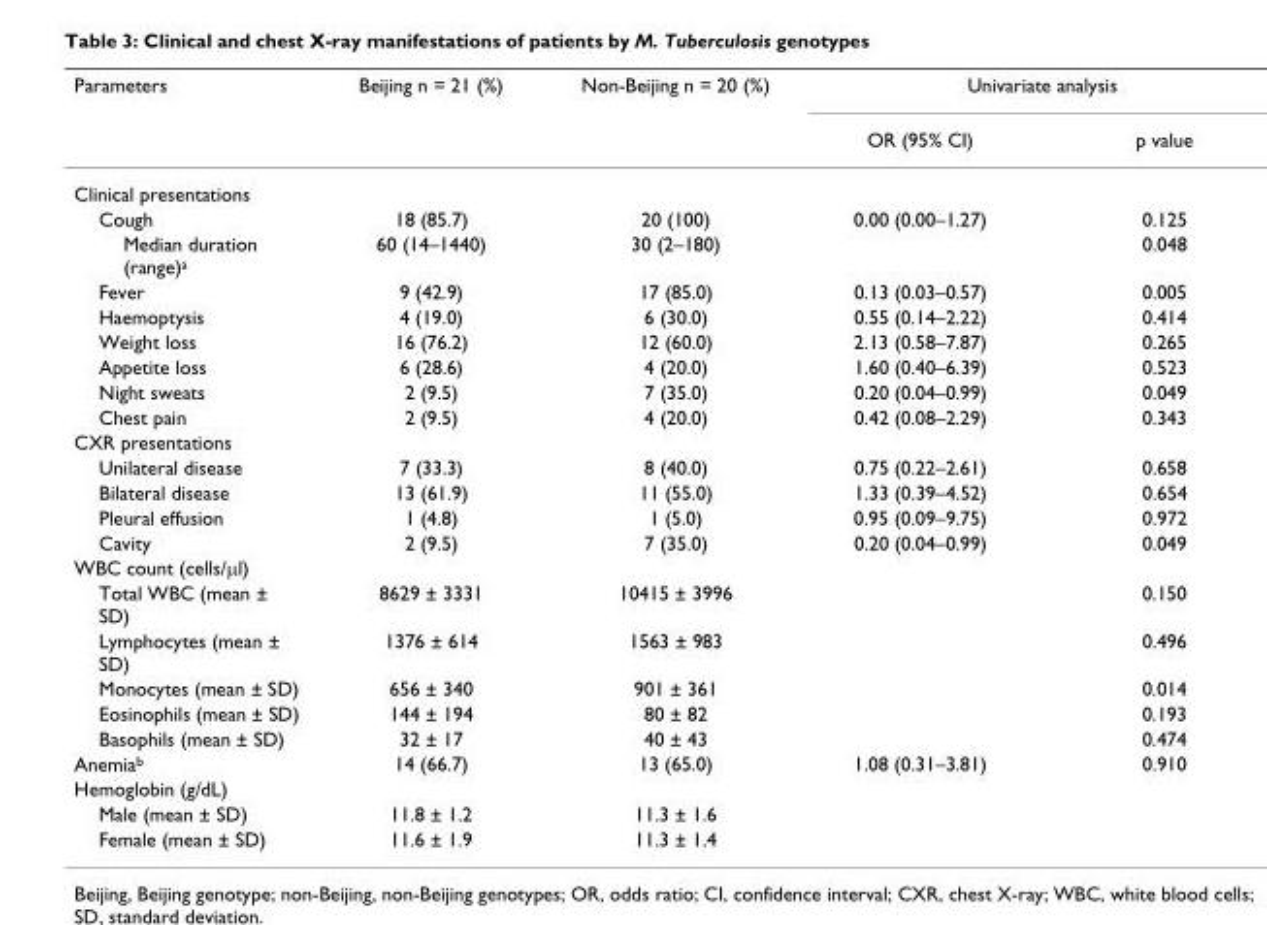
<table><thead><tr><td rowspan="2">Parameters</td><td rowspan="2">Beijing n = 21 (%)</td><td rowspan="2">Non-Beijing n = 20 (%)</td><td colspan="2">Univariate analysis</td></tr><tr><td>OR (95% CI)</td><td>p value</td></tr></thead><tbody><tr><td colspan="5">Clinical presentations</td></tr><tr><td>Cough</td><td>18 (85.7)</td><td>20 (100)</td><td>0.00 (0.00–1.27)</td><td>0.125</td></tr><tr><td>Median duration (range)<sup>a</sup></td><td>60 (14–1440)</td><td>30 (2–180)</td><td></td><td>0.048</td></tr><tr><td>Fever</td><td>9 (42.9)</td><td>17 (85.0)</td><td>0.13 (0.03–0.57)</td><td>0.005</td></tr><tr><td>Haemoptysis</td><td>4 (19.0)</td><td>6 (30.0)</td><td>0.55 (0.14–2.22)</td><td>0.414</td></tr><tr><td>Weight loss</td><td>16 (76.2)</td><td>12 (60.0)</td><td>2.13 (0.58–7.87)</td><td>0.265</td></tr><tr><td>Appetite loss</td><td>6 (28.6)</td><td>4 (20.0)</td><td>1.60 (0.40–6.39)</td><td>0.523</td></tr><tr><td>Night sweats</td><td>2 (9.5)</td><td>7 (35.0)</td><td>0.20 (0.04–0.99)</td><td>0.049</td></tr><tr><td>Chest pain</td><td>2 (9.5)</td><td>4 (20.0)</td><td>0.42 (0.08–2.29)</td><td>0.343</td></tr><tr><td colspan="5">CXR presentations</td></tr><tr><td>Unilateral disease</td><td>7 (33.3)</td><td>8 (40.0)</td><td>0.75 (0.22–2.61)</td><td>0.658</td></tr><tr><td>Bilateral disease</td><td>13 (61.9)</td><td>11 (55.0)</td><td>1.33 (0.39–4.52)</td><td>0.654</td></tr><tr><td>Pleural effusion</td><td>1 (4.8)</td><td>1 (5.0)</td><td>0.95 (0.09–9.75)</td><td>0.972</td></tr><tr><td>Cavity</td><td>2 (9.5)</td><td>7 (35.0)</td><td>0.20 (0.04–0.99)</td><td>0.049</td></tr><tr><td colspan="5">WBC count (cells/μl)</td></tr><tr><td>Total WBC (mean ± SD)</td><td>8629 ± 3331</td><td>10415 ± 3996</td><td></td><td>0.150</td></tr><tr><td>Lymphocytes (mean ± SD)</td><td>1376 ± 614</td><td>1563 ± 983</td><td></td><td>0.496</td></tr><tr><td>Monocytes (mean ± SD)</td><td>656 ± 340</td><td>901 ± 361</td><td></td><td>0.014</td></tr><tr><td>Eosinophils (mean ± SD)</td><td>144 ± 194</td><td>80 ± 82</td><td></td><td>0.193</td></tr><tr><td>Basophils (mean ± SD)</td><td>32 ± 17</td><td>40 ± 43</td><td></td><td>0.474</td></tr><tr><td>Anemia<sup>b</sup></td><td>14 (66.7)</td><td>13 (65.0)</td><td>1.08 (0.31–3.81)</td><td>0.910</td></tr><tr><td colspan="5">Hemoglobin (g/dL)</td></tr><tr><td>Male (mean ± SD)</td><td>11.8 ± 1.2</td><td>11.3 ± 1.6</td><td></td><td></td></tr><tr><td>Female (mean ± SD)</td><td>11.6 ± 1.9</td><td>11.3 ± 1.4</td><td></td><td></td></tr></tbody></table>